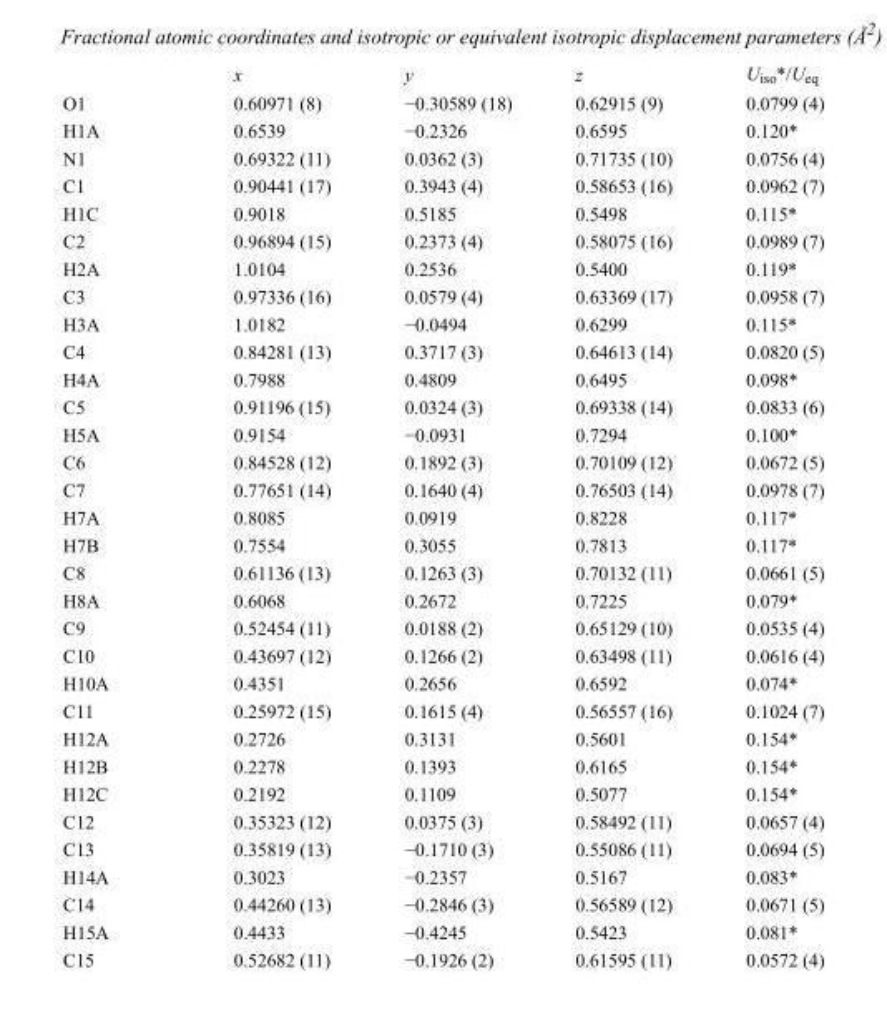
<table><thead><tr><td></td><td>x</td><td>y</td><td>z</td><td>U<sub>iso</sub>*/U<sub>eq</sub></td></tr></thead><tbody><tr><td>O1</td><td>0.60971 (8)</td><td>−0.30589 (18)</td><td>0.62915 (9)</td><td>0.0799 (4)</td></tr><tr><td>H1A</td><td>0.6539</td><td>−0.2326</td><td>0.6595</td><td>0.120*</td></tr><tr><td>N1</td><td>0.69322 (11)</td><td>0.0362 (3)</td><td>0.71735 (10)</td><td>0.0756 (4)</td></tr><tr><td>C1</td><td>0.90441 (17)</td><td>0.3943 (4)</td><td>0.58653 (16)</td><td>0.0962 (7)</td></tr><tr><td>H1C</td><td>0.9018</td><td>0.5185</td><td>0.5498</td><td>0.115*</td></tr><tr><td>C2</td><td>0.96894 (15)</td><td>0.2373 (4)</td><td>0.58075 (16)</td><td>0.0989 (7)</td></tr><tr><td>H2A</td><td>1.0104</td><td>0.2536</td><td>0.5400</td><td>0.119*</td></tr><tr><td>C3</td><td>0.97336 (16)</td><td>0.0579 (4)</td><td>0.63369 (17)</td><td>0.0958 (7)</td></tr><tr><td>H3A</td><td>1.0182</td><td>−0.0494</td><td>0.6299</td><td>0.115*</td></tr><tr><td>C4</td><td>0.84281 (13)</td><td>0.3717 (3)</td><td>0.64613 (14)</td><td>0.0820 (5)</td></tr><tr><td>H4A</td><td>0.7988</td><td>0.4809</td><td>0.6495</td><td>0.098*</td></tr><tr><td>C5</td><td>0.91196 (15)</td><td>0.0324 (3)</td><td>0.69338 (14)</td><td>0.0833 (6)</td></tr><tr><td>H5A</td><td>0.9154</td><td>−0.0931</td><td>0.7294</td><td>0.100*</td></tr><tr><td>C6</td><td>0.84528 (12)</td><td>0.1892 (3)</td><td>0.70109 (12)</td><td>0.0672 (5)</td></tr><tr><td>C7</td><td>0.77651 (14)</td><td>0.1640 (4)</td><td>0.76503 (14)</td><td>0.0978 (7)</td></tr><tr><td>H7A</td><td>0.8085</td><td>0.0919</td><td>0.8228</td><td>0.117*</td></tr><tr><td>H7B</td><td>0.7554</td><td>0.3055</td><td>0.7813</td><td>0.117*</td></tr><tr><td>C8</td><td>0.61136 (13)</td><td>0.1263 (3)</td><td>0.70132 (11)</td><td>0.0661 (5)</td></tr><tr><td>H8A</td><td>0.6068</td><td>0.2672</td><td>0.7225</td><td>0.079*</td></tr><tr><td>C9</td><td>0.52454 (11)</td><td>0.0188 (2)</td><td>0.65129 (10)</td><td>0.0535 (4)</td></tr><tr><td>C10</td><td>0.43697 (12)</td><td>0.1266 (2)</td><td>0.63498 (11)</td><td>0.0616 (4)</td></tr><tr><td>H10A</td><td>0.4351</td><td>0.2656</td><td>0.6592</td><td>0.074*</td></tr><tr><td>C11</td><td>0.25972 (15)</td><td>0.1615 (4)</td><td>0.56557 (16)</td><td>0.1024 (7)</td></tr><tr><td>H12A</td><td>0.2726</td><td>0.3131</td><td>0.5601</td><td>0.154*</td></tr><tr><td>H12B</td><td>0.2278</td><td>0.1393</td><td>0.6165</td><td>0.154*</td></tr><tr><td>H12C</td><td>0.2192</td><td>0.1109</td><td>0.5077</td><td>0.154*</td></tr><tr><td>C12</td><td>0.35323 (12)</td><td>0.0375 (3)</td><td>0.58492 (11)</td><td>0.0657 (4)</td></tr><tr><td>C13</td><td>0.35819 (13)</td><td>−0.1710 (3)</td><td>0.55086 (11)</td><td>0.0694 (5)</td></tr><tr><td>H14A</td><td>0.3023</td><td>−0.2357</td><td>0.5167</td><td>0.083*</td></tr><tr><td>C14</td><td>0.44260 (13)</td><td>−0.2846 (3)</td><td>0.56589 (12)</td><td>0.0671 (5)</td></tr><tr><td>H15A</td><td>0.4433</td><td>−0.4245</td><td>0.5423</td><td>0.081*</td></tr><tr><td>C15</td><td>0.52682 (11)</td><td>−0.1926 (2)</td><td>0.61595 (11)</td><td>0.0572 (4)</td></tr></tbody></table>